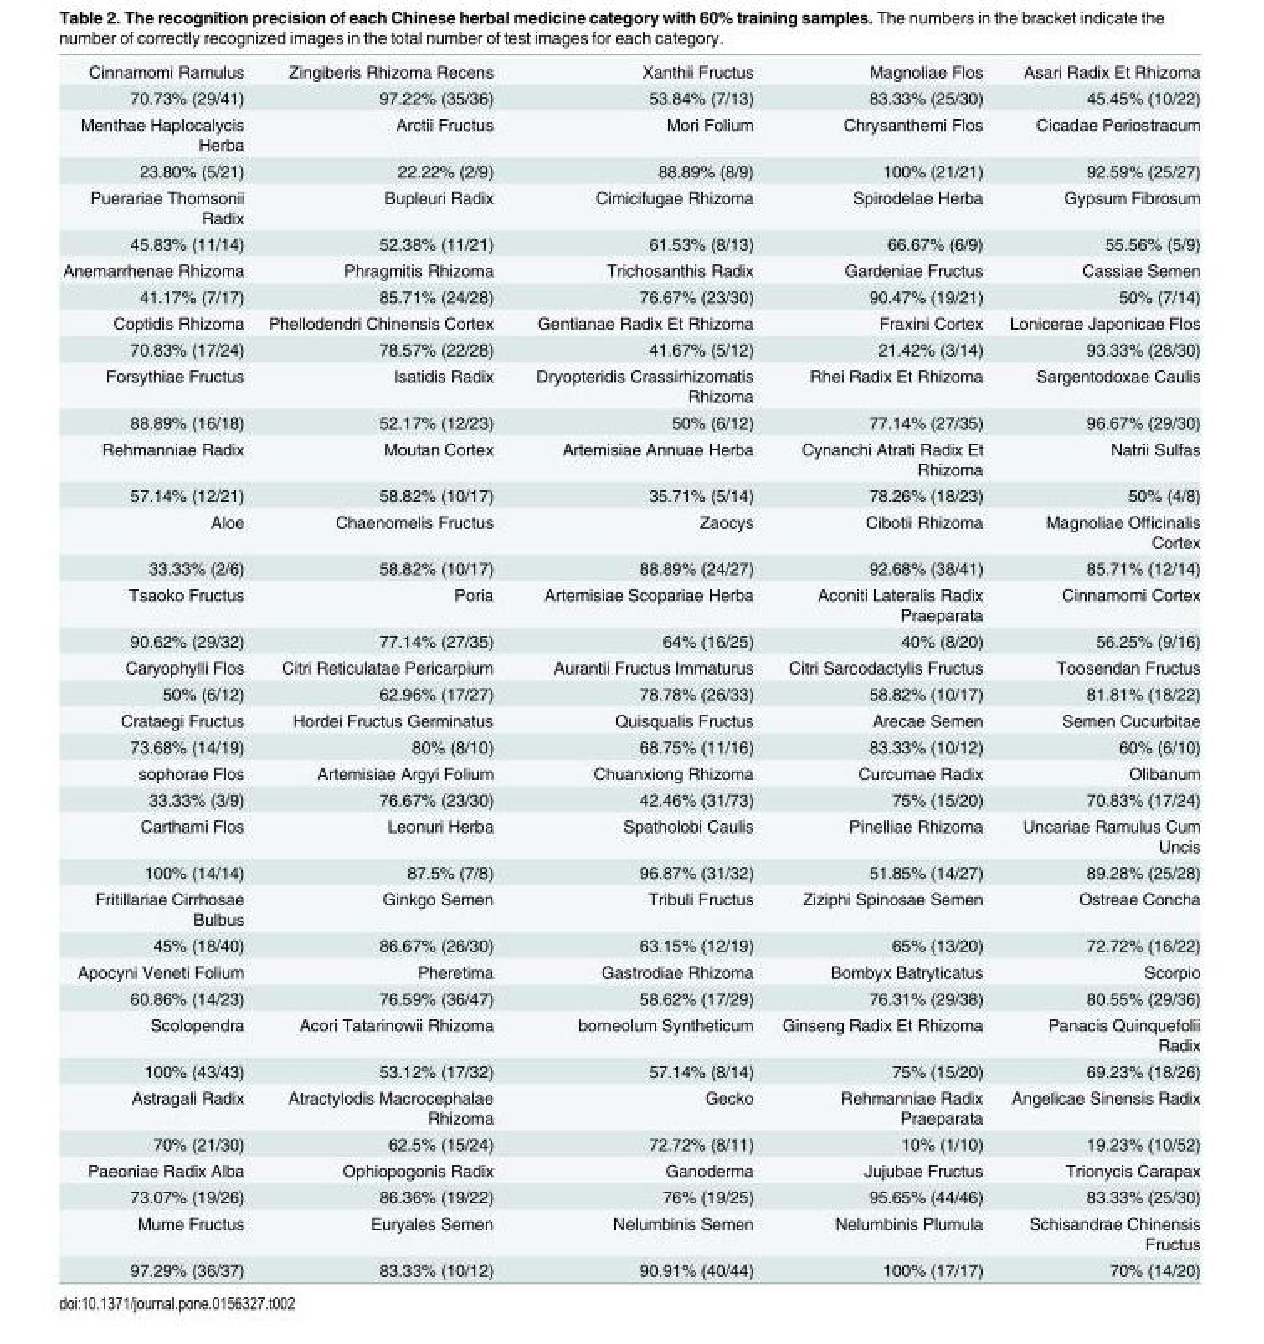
<table><tbody><tr><td>Cinnamomi Ramulus</td><td>Zingiberis Rhizoma Recens</td><td>Xanthii Fructus</td><td>Magnoliae Flos</td><td>Asari Radix Et Rhizoma</td></tr><tr><td>70.73% (29/41)</td><td>97.22% (35/36)</td><td>53.84% (7/13)</td><td>83.33% (25/30)</td><td>45.45% (10/22)</td></tr><tr><td>Menthae Haplocalycis Herba</td><td>Arctii Fructus</td><td>Mori Folium</td><td>Chrysanthemi Flos</td><td>Cicadae Periostracum</td></tr><tr><td>23.80% (5/21)</td><td>22.22% (2/9)</td><td>88.89% (8/9)</td><td>100% (21/21)</td><td>92.59% (25/27)</td></tr><tr><td>Puerariae Thomsonii Radix</td><td>Bupleuri Radix</td><td>Cimicifugae Rhizoma</td><td>Spirodelae Herba</td><td>Gypsum Fibrosum</td></tr><tr><td>45.83% (11/14)</td><td>52.38% (11/21)</td><td>61.53% (8/13)</td><td>66.67% (6/9)</td><td>55.56% (5/9)</td></tr><tr><td>Anemarrhenae Rhizoma</td><td>Phragmitis Rhizoma</td><td>Trichosanthis Radix</td><td>Gardeniae Fructus</td><td>Cassiae Semen</td></tr><tr><td>41.17% (7/17)</td><td>85.71% (24/28)</td><td>76.67% (23/30)</td><td>90.47% (19/21)</td><td>50% (7/14)</td></tr><tr><td>Coptidis Rhizoma</td><td>Phellodendri Chinensis Cortex</td><td>Gentianae Radix Et Rhizoma</td><td>Fraxini Cortex</td><td>Lonicerae Japonicae Flos</td></tr><tr><td>70.83% (17/24)</td><td>78.57% (22/28)</td><td>41.67% (5/12)</td><td>21.42% (3/14)</td><td>93.33% (28/30)</td></tr><tr><td>Forsythiae Fructus</td><td>Isatidis Radix</td><td>Dryopteridis Crassirhizomatis Rhizoma</td><td>Rhei Radix Et Rhizoma</td><td>Sargentodoxae Caulis</td></tr><tr><td>88.89% (16/18)</td><td>52.17% (12/23)</td><td>50% (6/12)</td><td>77.14% (27/35)</td><td>96.67% (29/30)</td></tr><tr><td>Rehmanniae Radix</td><td>Moutan Cortex</td><td>Artemisiae Annuae Herba</td><td>Cynanchi Atrati Radix Et Rhizoma</td><td>Natrii Sulfas</td></tr><tr><td>57.14% (12/21)</td><td>58.82% (10/17)</td><td>35.71% (5/14)</td><td>78.26% (18/23)</td><td>50% (4/8)</td></tr><tr><td>Aloe</td><td>Chaenomelis Fructus</td><td>Zaocys</td><td>Cibotii Rhizoma</td><td>Magnoliae Officinalis Cortex</td></tr><tr><td>33.33% (2/6)</td><td>58.82% (10/17)</td><td>88.89% (24/27)</td><td>92.68% (38/41)</td><td>85.71% (12/14)</td></tr><tr><td>Tsaoko Fructus</td><td>Poria</td><td>Artemisiae Scopariae Herba</td><td>Aconiti Lateralis Radix Praeparata</td><td>Cinnamomi Cortex</td></tr><tr><td>90.62% (29/32)</td><td>77.14% (27/35)</td><td>64% (16/25)</td><td>40% (8/20)</td><td>56.25% (9/16)</td></tr><tr><td>Caryophylli Flos</td><td>Citri Reticulatae Pericarpium</td><td>Aurantii Fructus Immaturus</td><td>Citri Sarcodactylis Fructus</td><td>Toosendan Fructus</td></tr><tr><td>50% (6/12)</td><td>62.96% (17/27)</td><td>78.78% (26/33)</td><td>58.82% (10/17)</td><td>81.81% (18/22)</td></tr><tr><td>Crataegi Fructus</td><td>Hordei Fructus Germinatus</td><td>Quisqualis Fructus</td><td>Arecae Semen</td><td>Semen Cucurbitae</td></tr><tr><td>73.68% (14/19)</td><td>80% (8/10)</td><td>68.75% (11/16)</td><td>83.33% (10/12)</td><td>60% (6/10)</td></tr><tr><td>sophorae Flos</td><td>Artemisiae Argyi Folium</td><td>Chuanxiong Rhizoma</td><td>Curcumae Radix</td><td>Olibanum</td></tr><tr><td>33.33% (3/9)</td><td>76.67% (23/30)</td><td>42.46% (31/73)</td><td>75% (15/20)</td><td>70.83% (17/24)</td></tr><tr><td>Carthami Flos</td><td>Leonuri Herba</td><td>Spatholobi Caulis</td><td>Pinelliae Rhizoma</td><td>Uncariae Ramulus Cum Uncis</td></tr><tr><td>100% (14/14)</td><td>87.5% (7/8)</td><td>96.87% (31/32)</td><td>51.85% (14/27)</td><td>89.28% (25/28)</td></tr><tr><td>Fritillariae Cirrhosae Bulbus</td><td>Ginkgo Semen</td><td>Tribuli Fructus</td><td>Ziziphi Spinosae Semen</td><td>Ostreae Concha</td></tr><tr><td>45% (18/40)</td><td>86.67% (26/30)</td><td>63.15% (12/19)</td><td>65% (13/20)</td><td>72.72% (16/22)</td></tr><tr><td>Apocyni Veneti Folium</td><td>Pheretima</td><td>Gastrodiae Rhizoma</td><td>Bombyx Batryticatus</td><td>Scorpio</td></tr><tr><td>60.86% (14/23)</td><td>76.59% (36/47)</td><td>58.62% (17/29)</td><td>76.31% (29/38)</td><td>80.55% (29/36)</td></tr><tr><td>Scolopendra</td><td>Acori Tatarinowii Rhizoma</td><td>borneolum Syntheticum</td><td>Ginseng Radix Et Rhizoma</td><td>Panacis Quinquefolii Radix</td></tr><tr><td>100% (43/43)</td><td>53.12% (17/32)</td><td>57.14% (8/14)</td><td>75% (15/20)</td><td>69.23% (18/26)</td></tr><tr><td>Astragali Radix</td><td>Atractylodis Macrocephalae Rhizoma</td><td>Gecko</td><td>Rehmanniae Radix Praeparata</td><td>Angelicae Sinensis Radix</td></tr><tr><td>70% (21/30)</td><td>62.5% (15/24)</td><td>72.72% (8/11)</td><td>10% (1/10)</td><td>19.23% (10/52)</td></tr><tr><td>Paeoniae Radix Alba</td><td>Ophiopogonis Radix</td><td>Ganoderma</td><td>Jujubae Fructus</td><td>Trionycis Carapax</td></tr><tr><td>73.07% (19/26)</td><td>86.36% (19/22)</td><td>76% (19/25)</td><td>95.65% (44/46)</td><td>83.33% (25/30)</td></tr><tr><td>Mume Fructus</td><td>Euryales Semen</td><td>Nelumbinis Semen</td><td>Nelumbinis Plumula</td><td>Schisandrae Chinensis Fructus</td></tr><tr><td>97.29% (36/37)</td><td>83.33% (10/12)</td><td>90.91% (40/44)</td><td>100% (17/17)</td><td>70% (14/20)</td></tr></tbody></table>